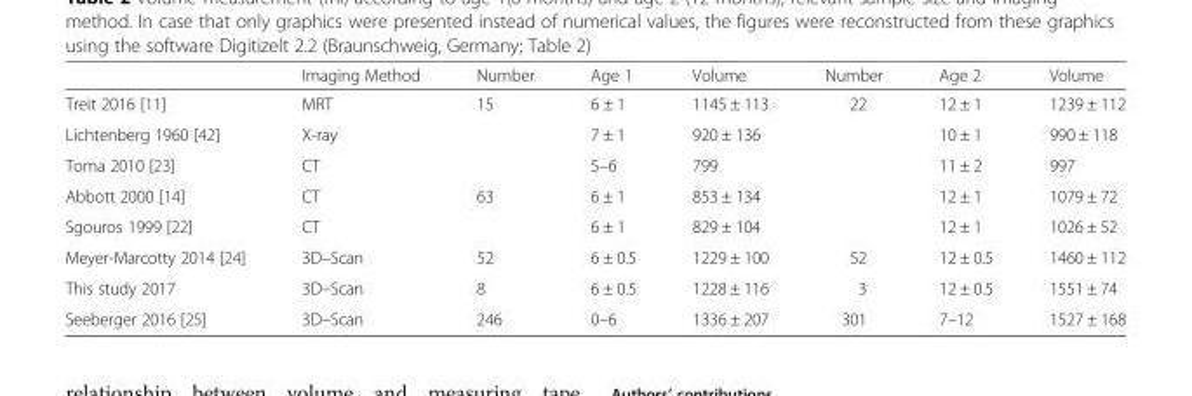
<table><thead><tr><td></td><td>Imaging Method</td><td>Number</td><td>Age 1</td><td>Volume</td><td>Number</td><td>Age 2</td><td>Volume</td></tr></thead><tbody><tr><td>Treit 2016 [11]</td><td>MRT</td><td>15</td><td>6 ± 1</td><td>1145 ± 113</td><td>22</td><td>12 ± 1</td><td>1239 ± 112</td></tr><tr><td>Lichtenberg 1960 [42]</td><td>X-ray</td><td></td><td>7 ± 1</td><td>920 ± 136</td><td></td><td>10 ± 1</td><td>990 ± 118</td></tr><tr><td>Toma 2010 [23]</td><td>CT</td><td></td><td>5–6</td><td>799</td><td></td><td>11 ± 2</td><td>997</td></tr><tr><td>Abbott 2000 [14]</td><td>CT</td><td>63</td><td>6 ± 1</td><td>853 ± 134</td><td></td><td>12 ± 1</td><td>1079 ± 72</td></tr><tr><td>Sgouros 1999 [22]</td><td>CT</td><td></td><td>6 ± 1</td><td>829 ± 104</td><td></td><td>12 ± 1</td><td>1026 ± 52</td></tr><tr><td>Meyer-Marcotty 2014 [24]</td><td>3D–Scan</td><td>52</td><td>6 ± 0.5</td><td>1229 ± 100</td><td>52</td><td>12 ± 0.5</td><td>1460 ± 112</td></tr><tr><td>This study 2017</td><td>3D–Scan</td><td>8</td><td>6 ± 0.5</td><td>1228 ± 116</td><td>3</td><td>12 ± 0.5</td><td>1551 ± 74</td></tr><tr><td>Seeberger 2016 [25]</td><td>3D–Scan</td><td>246</td><td>0–6</td><td>1336 ± 207</td><td>301</td><td>7–12</td><td>1527 ± 168</td></tr></tbody></table>